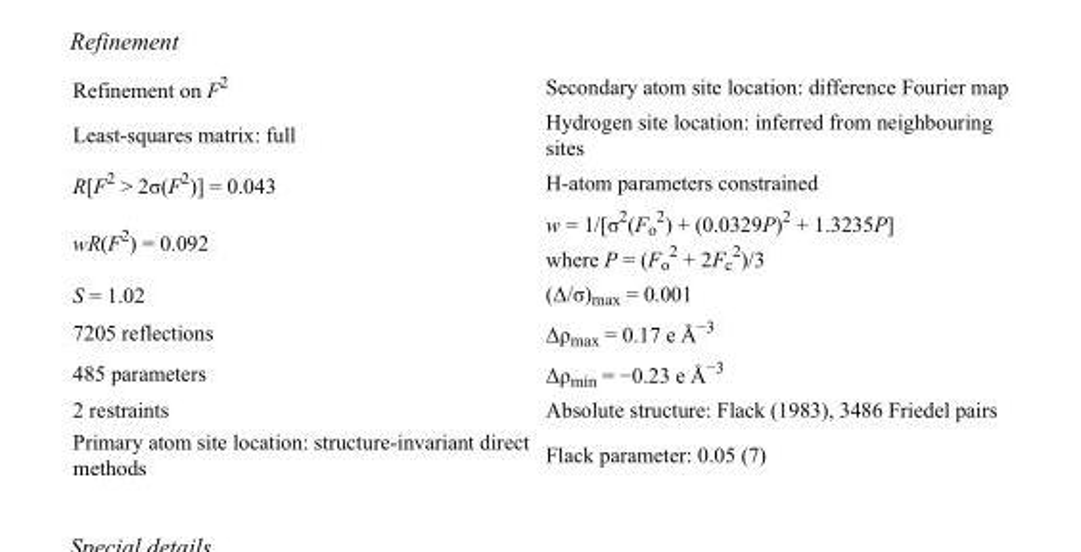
<table><tbody><tr><td>Refinement on F<sup>2</sup></td><td>Secondary atom site location: difference Fourier map</td></tr><tr><td>Least-squares matrix: full</td><td>Hydrogen site location: inferred from neighbouring sites</td></tr><tr><td>R[F<sup>2</sup> &gt; 2σ(F<sup>2</sup>)] = 0.043</td><td>H-atom parameters constrained</td></tr><tr><td>wR(F<sup>2</sup>) = 0.092</td><td>w = 1/[σ<sup>2</sup>(F<sub>o</sub> <sup>2</sup>) + (0.0329P)<sup>2</sup> + 1.3235P] where P = (F<sub>o</sub> <sup>2</sup> + 2F<sub>c</sub> <sup>2</sup>)/3</td></tr><tr><td>S = 1.02</td><td>(Δ/σ)<sub>max</sub> = 0.001</td></tr><tr><td>7205 reflections</td><td>Δρ<sub>max</sub> = 0.17 e Å<sup>−3</sup></td></tr><tr><td>485 parameters</td><td>Δρ<sub>min</sub> = −0.23 e Å<sup>−3</sup></td></tr><tr><td>2 restraints</td><td>Absolute structure: Flack (1983), 3486 Friedel pairs</td></tr><tr><td>Primary atom site location: structure-invariant direct methods</td><td>Flack parameter: 0.05 (7)</td></tr></tbody></table>